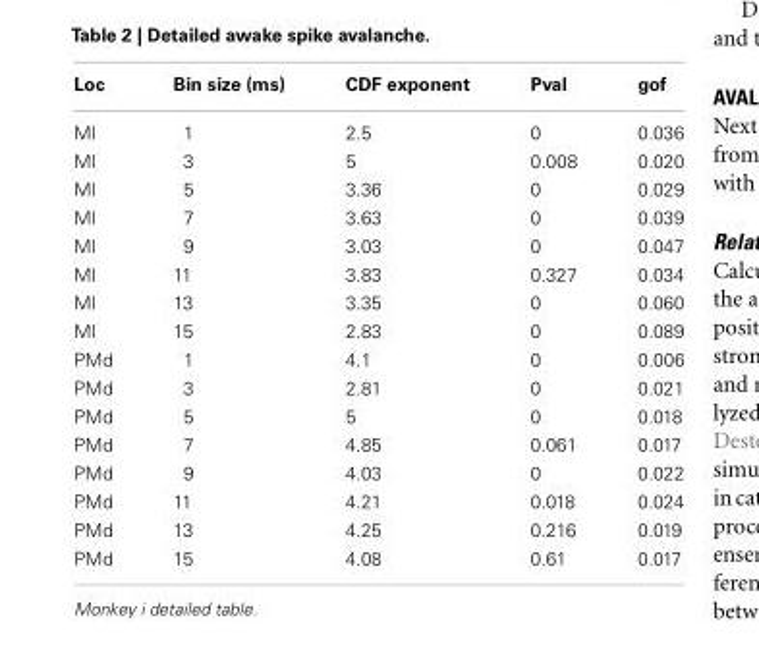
<table><thead><tr><td>Loc</td><td>Bin size (ms)</td><td>CDF exponent</td><td>Pval</td><td>gof</td></tr></thead><tbody><tr><td>MI</td><td>1</td><td>2.5</td><td>0</td><td>0.036</td></tr><tr><td>MI</td><td>3</td><td>5</td><td>0.008</td><td>0.020</td></tr><tr><td>MI</td><td>5</td><td>3.36</td><td>0</td><td>0.029</td></tr><tr><td>MI</td><td>7</td><td>3.63</td><td>0</td><td>0.039</td></tr><tr><td>MI</td><td>9</td><td>3.03</td><td>0</td><td>0.047</td></tr><tr><td>MI</td><td>11</td><td>3.83</td><td>0.327</td><td>0.034</td></tr><tr><td>MI</td><td>13</td><td>3.35</td><td>0</td><td>0.060</td></tr><tr><td>MI</td><td>15</td><td>2.83</td><td>0</td><td>0.089</td></tr><tr><td>PMd</td><td>1</td><td>4.1</td><td>0</td><td>0.006</td></tr><tr><td>PMd</td><td>3</td><td>2.81</td><td>0</td><td>0.021</td></tr><tr><td>PMd</td><td>5</td><td>5</td><td>0</td><td>0.018</td></tr><tr><td>PMd</td><td>7</td><td>4.85</td><td>0.061</td><td>0.017</td></tr><tr><td>PMd</td><td>9</td><td>4.03</td><td>0</td><td>0.022</td></tr><tr><td>PMd</td><td>11</td><td>4.21</td><td>0.018</td><td>0.024</td></tr><tr><td>PMd</td><td>13</td><td>4.25</td><td>0.216</td><td>0.019</td></tr><tr><td>PMd</td><td>15</td><td>4.08</td><td>0.61</td><td>0.017</td></tr></tbody></table>